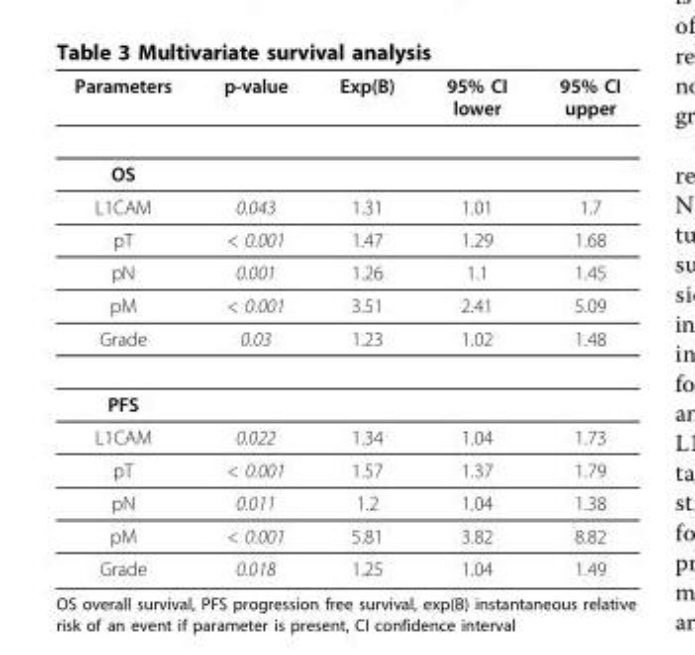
<table><thead><tr><td>Parameters</td><td>p-value</td><td>Exp(B)</td><td>95% CI lower</td><td>95% CI upper</td></tr></thead><tbody><tr><td colspan="5">OS</td></tr><tr><td>L1CAM</td><td>0.043</td><td>1.31</td><td>1.01</td><td>1.7</td></tr><tr><td>pT</td><td>&lt; 0.001</td><td>1.47</td><td>1.29</td><td>1.68</td></tr><tr><td>pN</td><td>0.001</td><td>1.26</td><td>1.1</td><td>1.45</td></tr><tr><td>pM</td><td>&lt; 0.001</td><td>3.51</td><td>2.41</td><td>5.09</td></tr><tr><td>Grade</td><td>0.03</td><td>1.23</td><td>1.02</td><td>1.48</td></tr><tr><td colspan="5">PFS</td></tr><tr><td>L1CAM</td><td>0.022</td><td>1.34</td><td>1.04</td><td>1.73</td></tr><tr><td>pT</td><td>&lt; 0.001</td><td>1.57</td><td>1.37</td><td>1.79</td></tr><tr><td>pN</td><td>0.011</td><td>1.2</td><td>1.04</td><td>1.38</td></tr><tr><td>pM</td><td>&lt; 0.001</td><td>5.81</td><td>3.82</td><td>8.82</td></tr><tr><td>Grade</td><td>0.018</td><td>1.25</td><td>1.04</td><td>1.49</td></tr></tbody></table>